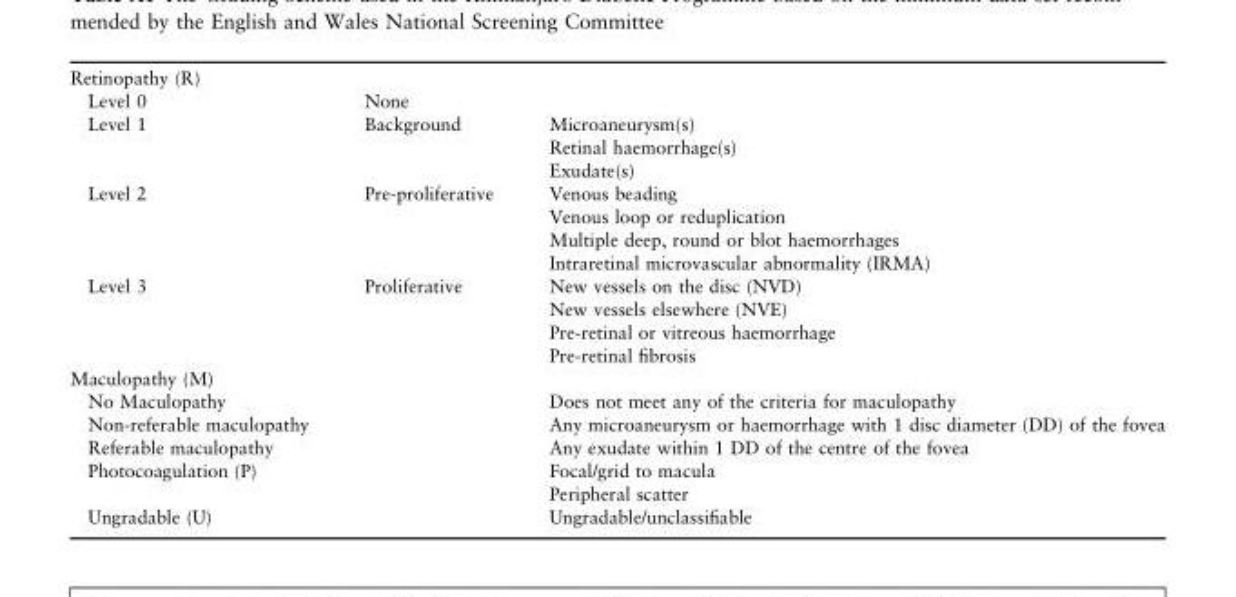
<table><tbody><tr><td colspan="3">Retinopathy (R)</td></tr><tr><td>Level 0</td><td>None</td><td></td></tr><tr><td rowspan="3">Level 1</td><td>Background</td><td>Microaneurysm(s)</td></tr><tr><td></td><td>Retinal haemorrhage(s)</td></tr><tr><td></td><td>Exudate(s)</td></tr><tr><td rowspan="4">Level 2</td><td>Pre-proliferative</td><td>Venous beading</td></tr><tr><td></td><td>Venous loop or reduplication</td></tr><tr><td></td><td>Multiple deep, round or blot haemorrhages</td></tr><tr><td></td><td>Intraretinal microvascular abnormality (IRMA)</td></tr><tr><td rowspan="4">Level 3</td><td>Proliferative</td><td>New vessels on the disc (NVD)</td></tr><tr><td></td><td>New vessels elsewhere (NVE)</td></tr><tr><td></td><td>Pre-retinal or vitreous haemorrhage</td></tr><tr><td></td><td>Pre-retinal fibrosis</td></tr><tr><td colspan="3">Maculopathy (M)</td></tr><tr><td>No Maculopathy</td><td></td><td>Does not meet any of the criteria for maculopathy</td></tr><tr><td>Non-referable maculopathy</td><td></td><td>Any microaneurysm or haemorrhage with 1 disc diameter (DD) of the fovea</td></tr><tr><td>Referable maculopathy</td><td></td><td>Any exudate within 1 DD of the centre of the fovea</td></tr><tr><td rowspan="2">Photocoagulation (P)</td><td></td><td>Focal/grid to macula</td></tr><tr><td></td><td>Peripheral scatter</td></tr><tr><td>Ungradable (U)</td><td></td><td>Ungradable/unclassifiable</td></tr></tbody></table>